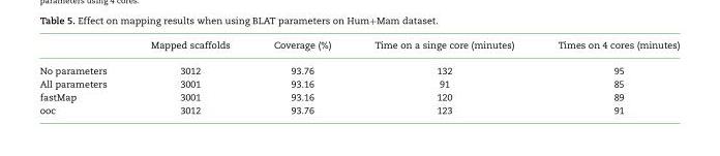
<table><thead><tr><td></td><td>Mapped scaffolds</td><td>Coverage (%)</td><td>Time on a singe core (minutes)</td><td>Times on 4 cores (minutes)</td></tr></thead><tbody><tr><td>No parameters</td><td>3012</td><td>93.76</td><td>132</td><td>95</td></tr><tr><td>All parameters</td><td>3001</td><td>93.16</td><td>91</td><td>85</td></tr><tr><td>fastMap</td><td>3001</td><td>93.16</td><td>120</td><td>89</td></tr><tr><td>ooc</td><td>3012</td><td>93.76</td><td>123</td><td>91</td></tr></tbody></table>